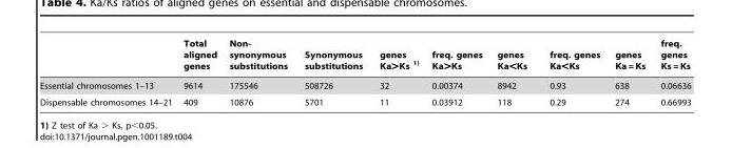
<table><thead><tr><td></td><td>Total aligned genes</td><td>Non- synonymous substitutions</td><td>Synonymous substitutions</td><td>genes Ka&gt;Ks 1)</td><td>freq. genes Ka&gt;Ks</td><td>genes Ka&lt;Ks</td><td>freq. genes Ka&lt;Ks</td><td>genes Ka = Ks</td><td>freq. genes Ks = Ks</td></tr></thead><tbody><tr><td>Essential chromosomes 1–13</td><td>9614</td><td>175546</td><td>508726</td><td>32</td><td>0.00374</td><td>8942</td><td>0.93</td><td>638</td><td>0.06636</td></tr><tr><td>Dispensable chromosomes 14–21</td><td>409</td><td>10876</td><td>5701</td><td>11</td><td>0.03912</td><td>118</td><td>0.29</td><td>274</td><td>0.66993</td></tr></tbody></table>